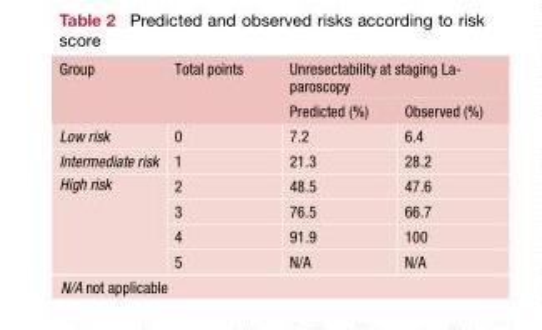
<table><thead><tr><td rowspan="2">Group</td><td rowspan="2">Total points</td><td colspan="2">Unresectability at staging La- paroscopy</td></tr><tr><td>Predicted (%)</td><td>Observed (%)</td></tr></thead><tbody><tr><td>Low risk</td><td>0</td><td>7.2</td><td>6.4</td></tr><tr><td>Intermediate risk</td><td>1</td><td>21.3</td><td>28.2</td></tr><tr><td rowspan="4">High risk</td><td>2</td><td>48.5</td><td>47.6</td></tr><tr><td>3</td><td>76.5</td><td>66.7</td></tr><tr><td>4</td><td>91.9</td><td>100</td></tr><tr><td>5</td><td>N/A</td><td>N/A</td></tr></tbody></table>